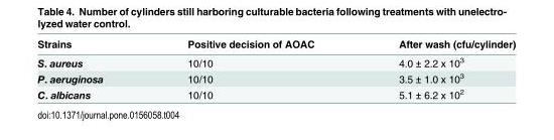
<table><thead><tr><td>Strains</td><td>Positive decision of AOAC</td><td>After wash (cfu/cylinder)</td></tr></thead><tbody><tr><td>S. aureus</td><td>10/10</td><td>4.0 ± 2.2 x 10<sup>3</sup></td></tr><tr><td>P. aeruginosa</td><td>10/10</td><td>3.5 ± 1.0 x 10<sup>3</sup></td></tr><tr><td>C. albicans</td><td>10/10</td><td>5.1 ± 6.2 x 10<sup>2</sup></td></tr></tbody></table>